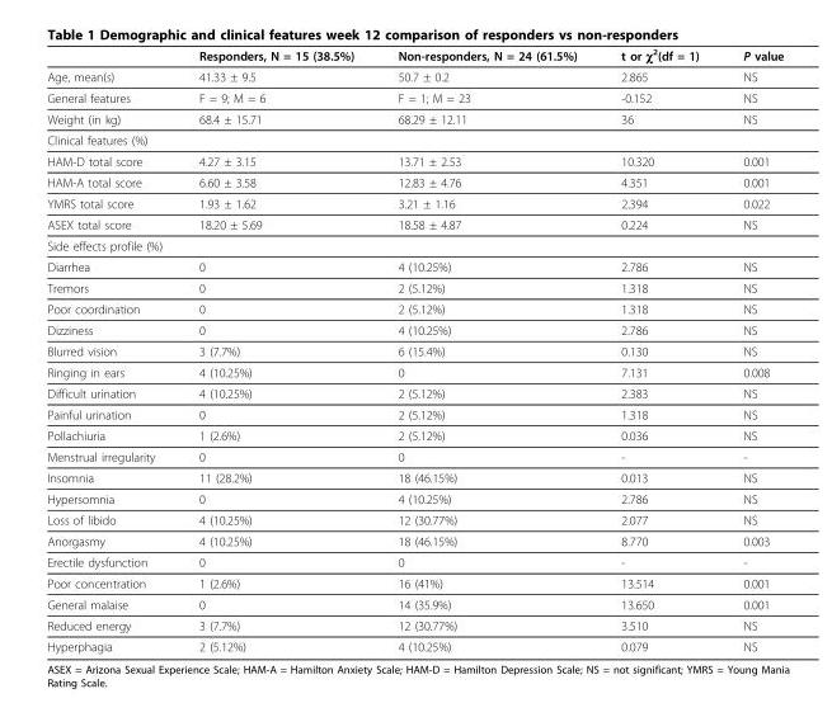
<table><thead><tr><td></td><td>Responders, N = 15 (38.5%)</td><td>Non-responders, N = 24 (61.5%)</td><td>t or χ<sup>2</sup>(df = 1)</td><td>P value</td></tr></thead><tbody><tr><td>Age, mean(s)</td><td>41.33 ± 9.5</td><td>50.7 ± 0.2</td><td>2.865</td><td>NS</td></tr><tr><td>General features</td><td>F = 9; M = 6</td><td>F = 1; M = 23</td><td>-0.152</td><td>NS</td></tr><tr><td>Weight (in kg)</td><td>68.4 ± 15.71</td><td>68.29 ± 12.11</td><td>36</td><td>NS</td></tr><tr><td colspan="5">Clinical features (%)</td></tr><tr><td>HAM-D total score</td><td>4.27 ± 3.15</td><td>13.71 ± 2.53</td><td>10.320</td><td>0.001</td></tr><tr><td>HAM-A total score</td><td>6.60 ± 3.58</td><td>12.83 ± 4.76</td><td>4.351</td><td>0.001</td></tr><tr><td>YMRS total score</td><td>1.93 ± 1.62</td><td>3.21 ± 1.16</td><td>2.394</td><td>0.022</td></tr><tr><td>ASEX total score</td><td>18.20 ± 5.69</td><td>18.58 ± 4.87</td><td>0.224</td><td>NS</td></tr><tr><td colspan="5">Side effects profile (%)</td></tr><tr><td>Diarrhea</td><td>0</td><td>4 (10.25%)</td><td>2.786</td><td>NS</td></tr><tr><td>Tremors</td><td>0</td><td>2 (5.12%)</td><td>1.318</td><td>NS</td></tr><tr><td>Poor coordination</td><td>0</td><td>2 (5.12%)</td><td>1.318</td><td>NS</td></tr><tr><td>Dizziness</td><td>0</td><td>4 (10.25%)</td><td>2.786</td><td>NS</td></tr><tr><td>Blurred vision</td><td>3 (7.7%)</td><td>6 (15.4%)</td><td>0.130</td><td>NS</td></tr><tr><td>Ringing in ears</td><td>4 (10.25%)</td><td>0</td><td>7.131</td><td>0.008</td></tr><tr><td>Difficult urination</td><td>4 (10.25%)</td><td>2 (5.12%)</td><td>2.383</td><td>NS</td></tr><tr><td>Painful urination</td><td>0</td><td>2 (5.12%)</td><td>1.318</td><td>NS</td></tr><tr><td>Pollachiuria</td><td>1 (2.6%)</td><td>2 (5.12%)</td><td>0.036</td><td>NS</td></tr><tr><td>Menstrual irregularity</td><td>0</td><td>0</td><td>-</td><td>-</td></tr><tr><td>Insomnia</td><td>11 (28.2%)</td><td>18 (46.15%)</td><td>0.013</td><td>NS</td></tr><tr><td>Hypersomnia</td><td>0</td><td>4 (10.25%)</td><td>2.786</td><td>NS</td></tr><tr><td>Loss of libido</td><td>4 (10.25%)</td><td>12 (30.77%)</td><td>2.077</td><td>NS</td></tr><tr><td>Anorgasmy</td><td>4 (10.25%)</td><td>18 (46.15%)</td><td>8.770</td><td>0.003</td></tr><tr><td>Erectile dysfunction</td><td>0</td><td>0</td><td>-</td><td>-</td></tr><tr><td>Poor concentration</td><td>1 (2.6%)</td><td>16 (41%)</td><td>13.514</td><td>0.001</td></tr><tr><td>General malaise</td><td>0</td><td>14 (35.9%)</td><td>13.650</td><td>0.001</td></tr><tr><td>Reduced energy</td><td>3 (7.7%)</td><td>12 (30.77%)</td><td>3.510</td><td>NS</td></tr><tr><td>Hyperphagia</td><td>2 (5.12%)</td><td>4 (10.25%)</td><td>0.079</td><td>NS</td></tr></tbody></table>